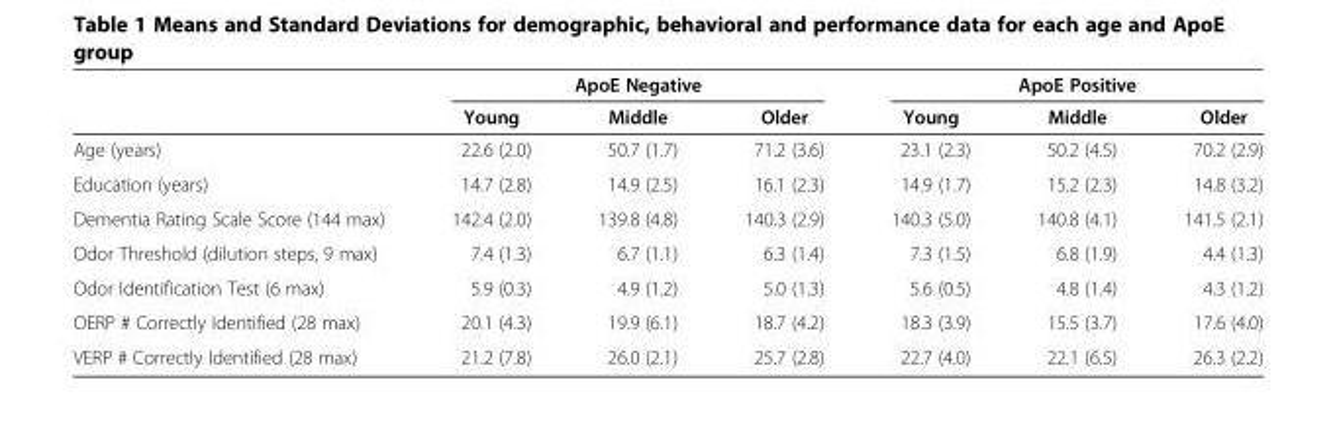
<table><thead><tr><td rowspan="2"></td><td colspan="3">ApoE Negative</td><td colspan="3">ApoE Positive</td></tr><tr><td>Young</td><td>Middle</td><td>Older</td><td>Young</td><td>Middle</td><td>Older</td></tr></thead><tbody><tr><td>Age (years)</td><td>22.6 (2.0)</td><td>50.7 (1.7)</td><td>71.2 (3.6)</td><td>23.1 (2.3)</td><td>50.2 (4.5)</td><td>70.2 (2.9)</td></tr><tr><td>Education (years)</td><td>14.7 (2.8)</td><td>14.9 (2.5)</td><td>16.1 (2.3)</td><td>14.9 (1.7)</td><td>15.2 (2.3)</td><td>14.8 (3.2)</td></tr><tr><td>Dementia Rating Scale Score (144 max)</td><td>142.4 (2.0)</td><td>139.8 (4.8)</td><td>140.3 (2.9)</td><td>140.3 (5.0)</td><td>140.8 (4.1)</td><td>141.5 (2.1)</td></tr><tr><td>Odor Threshold (dilution steps, 9 max)</td><td>7.4 (1.3)</td><td>6.7 (1.1)</td><td>6.3 (1.4)</td><td>7.3 (1.5)</td><td>6.8 (1.9)</td><td>4.4 (1.3)</td></tr><tr><td>Odor Identification Test (6 max)</td><td>5.9 (0.3)</td><td>4.9 (1.2)</td><td>5.0 (1.3)</td><td>5.6 (0.5)</td><td>4.8 (1.4)</td><td>4.3 (1.2)</td></tr><tr><td>OERP # Correctly Identified (28 max)</td><td>20.1 (4.3)</td><td>19.9 (6.1)</td><td>18.7 (4.2)</td><td>18.3 (3.9)</td><td>15.5 (3.7)</td><td>17.6 (4.0)</td></tr><tr><td>VERP # Correctly Identified (28 max)</td><td>21.2 (7.8)</td><td>26.0 (2.1)</td><td>25.7 (2.8)</td><td>22.7 (4.0)</td><td>22.1 (6.5)</td><td>26.3 (2.2)</td></tr></tbody></table>